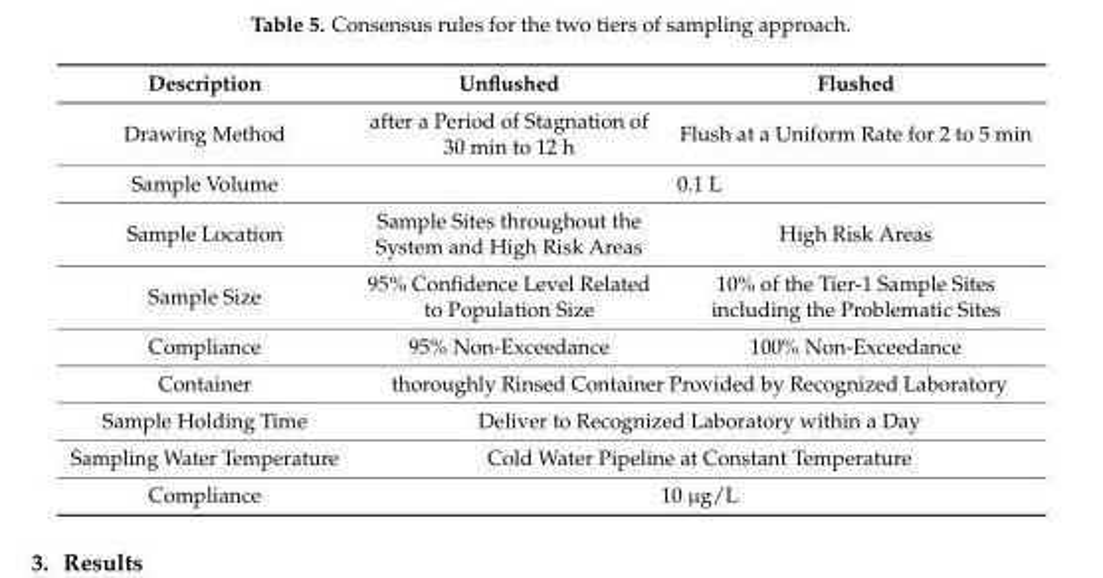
<table><thead><tr><td>Description</td><td>Unflushed</td><td>Flushed</td></tr></thead><tbody><tr><td>Drawing Method</td><td>after a Period of Stagnation of 30 min to 12 h</td><td>Flush at a Uniform Rate for 2 to 5 min</td></tr><tr><td>Sample Volume</td><td colspan="2">0.1 L</td></tr><tr><td>Sample Location</td><td>Sample Sites throughout the System and High Risk Areas</td><td>High Risk Areas</td></tr><tr><td>Sample Size</td><td>95% Confidence Level Related to Population Size</td><td>10% of the Tier-1 Sample Sites including the Problematic Sites</td></tr><tr><td>Compliance</td><td>95% Non-Exceedance</td><td>100% Non-Exceedance</td></tr><tr><td>Container</td><td colspan="2">thoroughly Rinsed Container Provided by Recognized Laboratory</td></tr><tr><td>Sample Holding Time</td><td colspan="2">Deliver to Recognized Laboratory within a Day</td></tr><tr><td>Sampling Water Temperature</td><td colspan="2">Cold Water Pipeline at Constant Temperature</td></tr><tr><td>Compliance</td><td colspan="2">10 µg/L</td></tr></tbody></table>